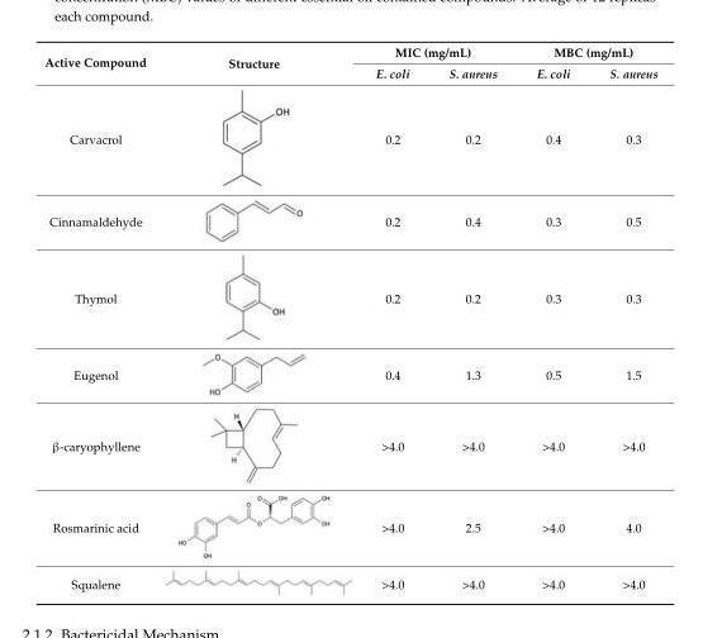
<table><thead><tr><td rowspan="2">Active Compound</td><td rowspan="2">Structure</td><td colspan="2">MIC (mg/mL)</td><td colspan="2">MBC (mg/mL)</td></tr><tr><td>E. coli</td><td>S. aureus</td><td>E. coli</td><td>S. aureus</td></tr></thead><tbody><tr><td>Carvacrol</td><td></td><td>0.2</td><td>0.2</td><td>0.4</td><td>0.3</td></tr><tr><td>Cinnamaldehyde</td><td></td><td>0.2</td><td>0.4</td><td>0.3</td><td>0.5</td></tr><tr><td>Thymol</td><td></td><td>0.2</td><td>0.2</td><td>0.3</td><td>0.3</td></tr><tr><td>Eugenol</td><td></td><td>0.4</td><td>1.3</td><td>0.5</td><td>1.5</td></tr><tr><td>β-caryophyllene</td><td></td><td>&gt;4.0</td><td>&gt;4.0</td><td>&gt;4.0</td><td>&gt;4.0</td></tr><tr><td>Rosmarinic acid</td><td></td><td>&gt;4.0</td><td>2.5</td><td>&gt;4.0</td><td>4.0</td></tr><tr><td>Squalene</td><td></td><td>&gt;4.0</td><td>&gt;4.0</td><td>&gt;4.0</td><td>&gt;4.0</td></tr></tbody></table>